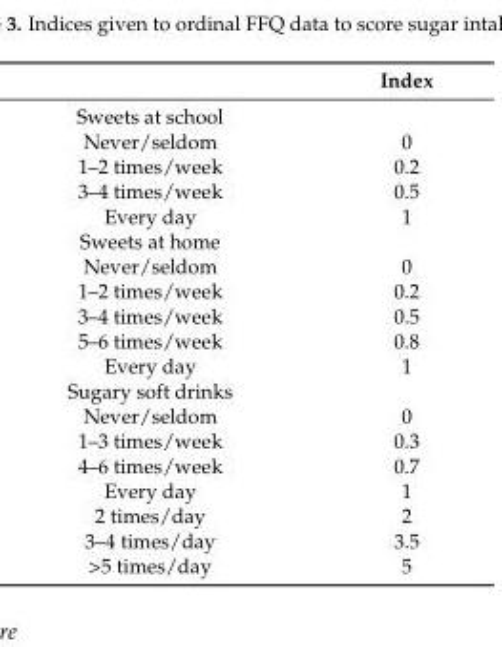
<table><thead><tr><td></td><td>Index</td></tr></thead><tbody><tr><td colspan="2">Sweets at school</td></tr><tr><td>Never/seldom</td><td>0</td></tr><tr><td>1–2 times/week</td><td>0.2</td></tr><tr><td>3–4 times/week</td><td>0.5</td></tr><tr><td>Every day</td><td>1</td></tr><tr><td colspan="2">Sweets at home</td></tr><tr><td>Never/seldom</td><td>0</td></tr><tr><td>1–2 times/week</td><td>0.2</td></tr><tr><td>3–4 times/week</td><td>0.5</td></tr><tr><td>5–6 times/week</td><td>0.8</td></tr><tr><td>Every day</td><td>1</td></tr><tr><td colspan="2">Sugary soft drinks</td></tr><tr><td>Never/seldom</td><td>0</td></tr><tr><td>1–3 times/week</td><td>0.3</td></tr><tr><td>4–6 times/week</td><td>0.7</td></tr><tr><td>Every day</td><td>1</td></tr><tr><td>2 times/day</td><td>2</td></tr><tr><td>3–4 times/day</td><td>3.5</td></tr><tr><td>&gt;5 times/day</td><td>5</td></tr></tbody></table>